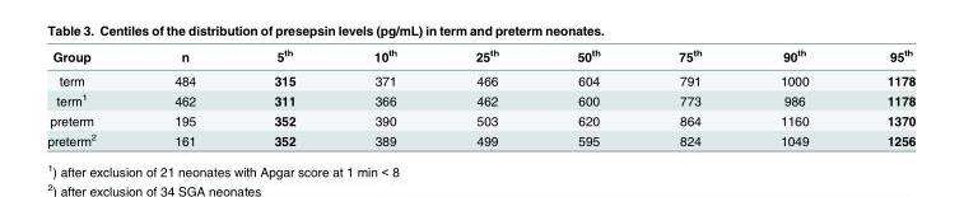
<table><thead><tr><td>Group</td><td>n</td><td>5<sup>th</sup></td><td>10<sup>th</sup></td><td>25<sup>th</sup></td><td>50<sup>th</sup></td><td>75<sup>th</sup></td><td>90<sup>th</sup></td><td>95<sup>th</sup></td></tr></thead><tbody><tr><td>term</td><td>484</td><td>315</td><td>371</td><td>466</td><td>604</td><td>791</td><td>1000</td><td>1178</td></tr><tr><td>term<sup>1</sup></td><td>462</td><td>311</td><td>366</td><td>462</td><td>600</td><td>773</td><td>986</td><td>1178</td></tr><tr><td>preterm</td><td>195</td><td>352</td><td>390</td><td>503</td><td>620</td><td>864</td><td>1160</td><td>1370</td></tr><tr><td>preterm<sup>2</sup></td><td>161</td><td>352</td><td>389</td><td>499</td><td>595</td><td>824</td><td>1049</td><td>1256</td></tr></tbody></table>